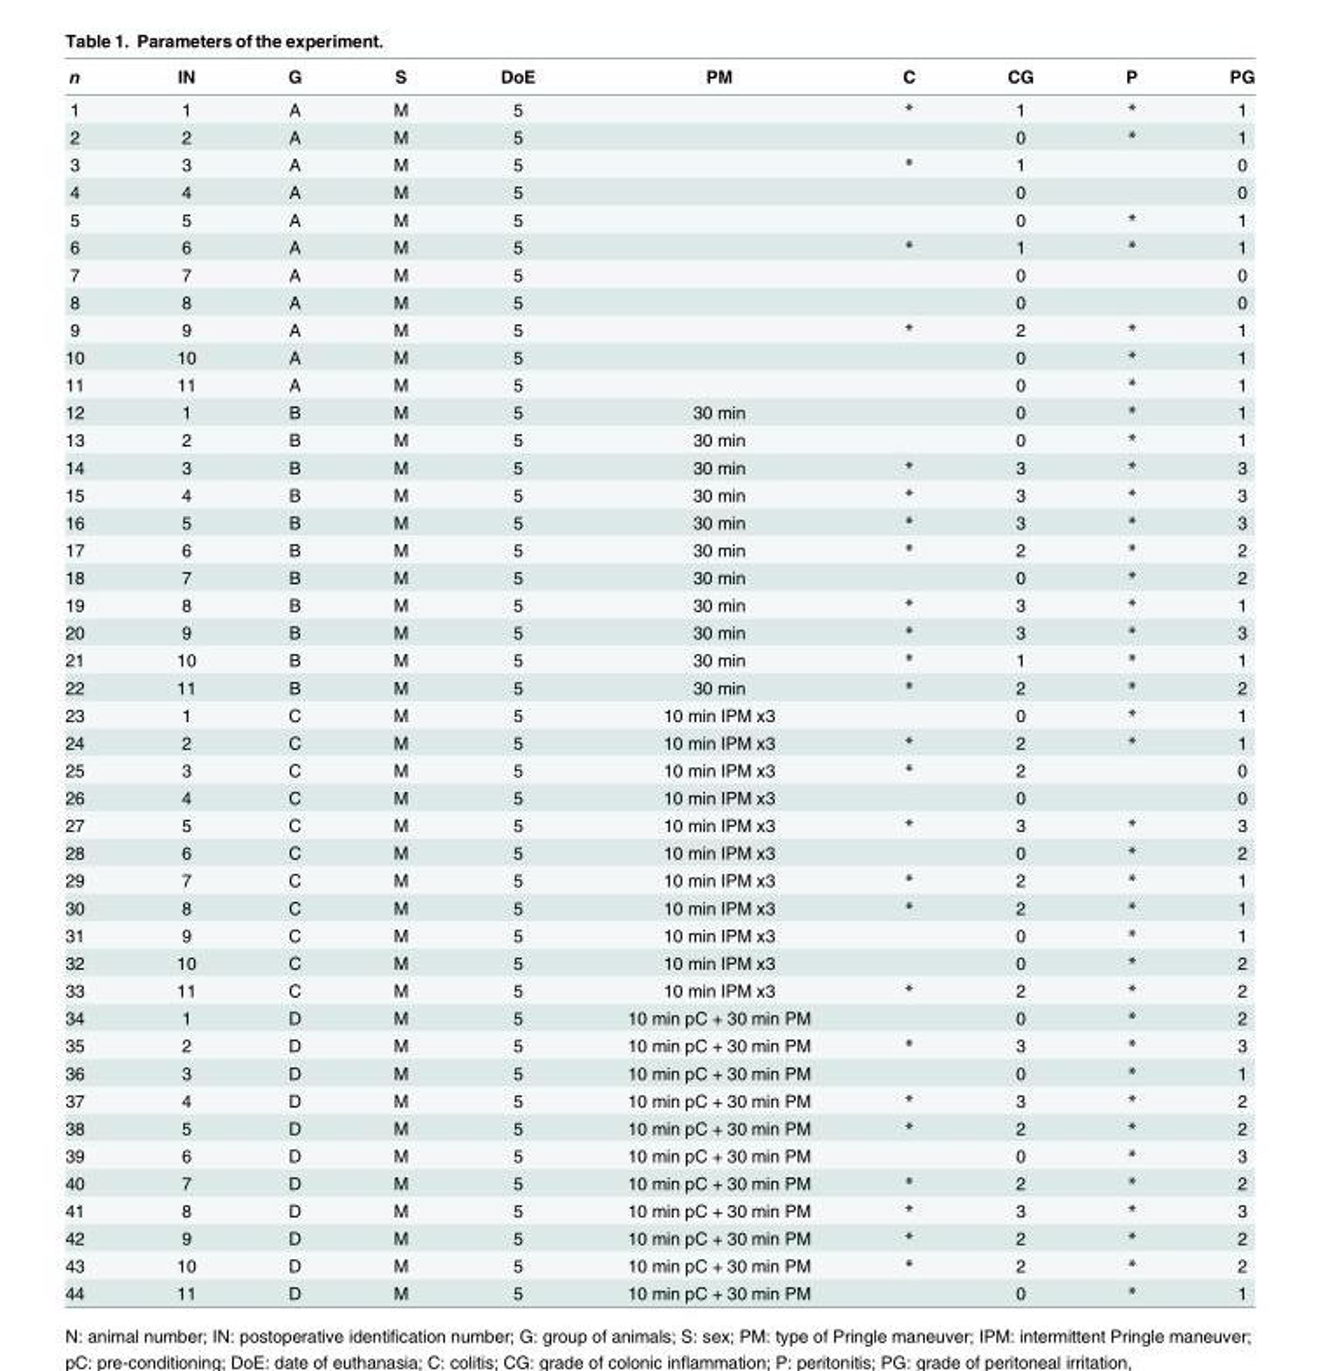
<table><thead><tr><td>n</td><td>IN</td><td>G</td><td>S</td><td>DoE</td><td>PM</td><td>C</td><td>CG</td><td>P</td><td>PG</td></tr></thead><tbody><tr><td>1</td><td>1</td><td>A</td><td>M</td><td>5</td><td></td><td>*</td><td>1</td><td>*</td><td>1</td></tr><tr><td>2</td><td>2</td><td>A</td><td>M</td><td>5</td><td></td><td></td><td>0</td><td>*</td><td>1</td></tr><tr><td>3</td><td>3</td><td>A</td><td>M</td><td>5</td><td></td><td>*</td><td>1</td><td></td><td>0</td></tr><tr><td>4</td><td>4</td><td>A</td><td>M</td><td>5</td><td></td><td></td><td>0</td><td></td><td>0</td></tr><tr><td>5</td><td>5</td><td>A</td><td>M</td><td>5</td><td></td><td></td><td>0</td><td>*</td><td>1</td></tr><tr><td>6</td><td>6</td><td>A</td><td>M</td><td>5</td><td></td><td>*</td><td>1</td><td>*</td><td>1</td></tr><tr><td>7</td><td>7</td><td>A</td><td>M</td><td>5</td><td></td><td></td><td>0</td><td></td><td>0</td></tr><tr><td>8</td><td>8</td><td>A</td><td>M</td><td>5</td><td></td><td></td><td>0</td><td></td><td>0</td></tr><tr><td>9</td><td>9</td><td>A</td><td>M</td><td>5</td><td></td><td>*</td><td>2</td><td>*</td><td>1</td></tr><tr><td>10</td><td>10</td><td>A</td><td>M</td><td>5</td><td></td><td></td><td>0</td><td>*</td><td>1</td></tr><tr><td>11</td><td>11</td><td>A</td><td>M</td><td>5</td><td></td><td></td><td>0</td><td>*</td><td>1</td></tr><tr><td>12</td><td>1</td><td>B</td><td>M</td><td>5</td><td>30 min</td><td></td><td>0</td><td>*</td><td>1</td></tr><tr><td>13</td><td>2</td><td>B</td><td>M</td><td>5</td><td>30 min</td><td></td><td>0</td><td>*</td><td>1</td></tr><tr><td>14</td><td>3</td><td>B</td><td>M</td><td>5</td><td>30 min</td><td>*</td><td>3</td><td>*</td><td>3</td></tr><tr><td>15</td><td>4</td><td>B</td><td>M</td><td>5</td><td>30 min</td><td>*</td><td>3</td><td>*</td><td>3</td></tr><tr><td>16</td><td>5</td><td>B</td><td>M</td><td>5</td><td>30 min</td><td>*</td><td>3</td><td>*</td><td>3</td></tr><tr><td>17</td><td>6</td><td>B</td><td>M</td><td>5</td><td>30 min</td><td>*</td><td>2</td><td>*</td><td>2</td></tr><tr><td>18</td><td>7</td><td>B</td><td>M</td><td>5</td><td>30 min</td><td></td><td>0</td><td>*</td><td>2</td></tr><tr><td>19</td><td>8</td><td>B</td><td>M</td><td>5</td><td>30 min</td><td>*</td><td>3</td><td>*</td><td>1</td></tr><tr><td>20</td><td>9</td><td>B</td><td>M</td><td>5</td><td>30 min</td><td>*</td><td>3</td><td>*</td><td>3</td></tr><tr><td>21</td><td>10</td><td>B</td><td>M</td><td>5</td><td>30 min</td><td>*</td><td>1</td><td>*</td><td>1</td></tr><tr><td>22</td><td>11</td><td>B</td><td>M</td><td>5</td><td>30 min</td><td>*</td><td>2</td><td>*</td><td>2</td></tr><tr><td>23</td><td>1</td><td>C</td><td>M</td><td>5</td><td>10 min IPM x3</td><td></td><td>0</td><td>*</td><td>1</td></tr><tr><td>24</td><td>2</td><td>C</td><td>M</td><td>5</td><td>10 min IPM x3</td><td>*</td><td>2</td><td>*</td><td>1</td></tr><tr><td>25</td><td>3</td><td>C</td><td>M</td><td>5</td><td>10 min IPM x3</td><td>*</td><td>2</td><td></td><td>0</td></tr><tr><td>26</td><td>4</td><td>C</td><td>M</td><td>5</td><td>10 min IPM x3</td><td></td><td>0</td><td></td><td>0</td></tr><tr><td>27</td><td>5</td><td>C</td><td>M</td><td>5</td><td>10 min IPM x3</td><td>*</td><td>3</td><td>*</td><td>3</td></tr><tr><td>28</td><td>6</td><td>C</td><td>M</td><td>5</td><td>10 min IPM x3</td><td></td><td>0</td><td>*</td><td>2</td></tr><tr><td>29</td><td>7</td><td>C</td><td>M</td><td>5</td><td>10 min IPM x3</td><td>*</td><td>2</td><td>*</td><td>1</td></tr><tr><td>30</td><td>8</td><td>C</td><td>M</td><td>5</td><td>10 min IPM x3</td><td>*</td><td>2</td><td>*</td><td>1</td></tr><tr><td>31</td><td>9</td><td>C</td><td>M</td><td>5</td><td>10 min IPM x3</td><td></td><td>0</td><td>*</td><td>1</td></tr><tr><td>32</td><td>10</td><td>C</td><td>M</td><td>5</td><td>10 min IPM x3</td><td></td><td>0</td><td>*</td><td>2</td></tr><tr><td>33</td><td>11</td><td>C</td><td>M</td><td>5</td><td>10 min IPM x3</td><td>*</td><td>2</td><td>*</td><td>2</td></tr><tr><td>34</td><td>1</td><td>D</td><td>M</td><td>5</td><td>10 min pC + 30 min PM</td><td></td><td>0</td><td>*</td><td>2</td></tr><tr><td>35</td><td>2</td><td>D</td><td>M</td><td>5</td><td>10 min pC + 30 min PM</td><td>*</td><td>3</td><td>*</td><td>3</td></tr><tr><td>36</td><td>3</td><td>D</td><td>M</td><td>5</td><td>10 min pC + 30 min PM</td><td></td><td>0</td><td>*</td><td>1</td></tr><tr><td>37</td><td>4</td><td>D</td><td>M</td><td>5</td><td>10 min pC + 30 min PM</td><td>*</td><td>3</td><td>*</td><td>2</td></tr><tr><td>38</td><td>5</td><td>D</td><td>M</td><td>5</td><td>10 min pC + 30 min PM</td><td>*</td><td>2</td><td>*</td><td>2</td></tr><tr><td>39</td><td>6</td><td>D</td><td>M</td><td>5</td><td>10 min pC + 30 min PM</td><td></td><td>0</td><td>*</td><td>3</td></tr><tr><td>40</td><td>7</td><td>D</td><td>M</td><td>5</td><td>10 min pC + 30 min PM</td><td>*</td><td>2</td><td>*</td><td>2</td></tr><tr><td>41</td><td>8</td><td>D</td><td>M</td><td>5</td><td>10 min pC + 30 min PM</td><td>*</td><td>3</td><td>*</td><td>3</td></tr><tr><td>42</td><td>9</td><td>D</td><td>M</td><td>5</td><td>10 min pC + 30 min PM</td><td>*</td><td>2</td><td>*</td><td>2</td></tr><tr><td>43</td><td>10</td><td>D</td><td>M</td><td>5</td><td>10 min pC + 30 min PM</td><td>*</td><td>2</td><td>*</td><td>2</td></tr><tr><td>44</td><td>11</td><td>D</td><td>M</td><td>5</td><td>10 min pC + 30 min PM</td><td></td><td>0</td><td>*</td><td>1</td></tr></tbody></table>